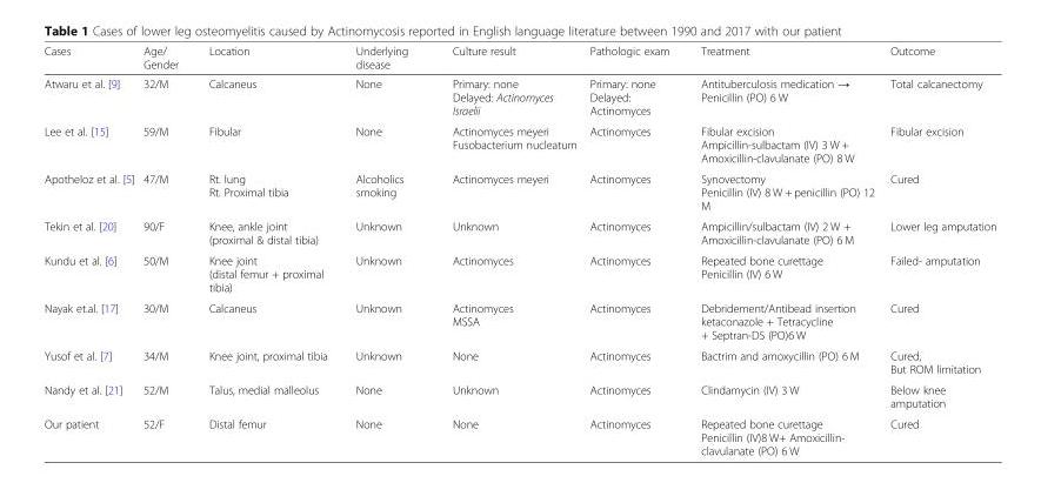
<table><thead><tr><td>Cases</td><td>Age/ Gender</td><td>Location</td><td>Underlying disease</td><td>Culture result</td><td>Pathologic exam</td><td>Treatment</td><td>Outcome</td></tr></thead><tbody><tr><td>Atwaru et al. [9]</td><td>32/M</td><td>Calcaneus</td><td>None</td><td>Primary: none Delayed: Actinomyces Israelii</td><td>Primary: none Delayed: Actinomyces</td><td>Antituberculosis medication → Penicillin (PO) 6 W</td><td>Total calcanectomy</td></tr><tr><td>Lee et al. [15]</td><td>59/M</td><td>Fibular</td><td>None</td><td>Actinomyces meyeri Fusobacterium nucleatum</td><td>Actinomyces</td><td>Fibular excision Ampicillin-sulbactam (IV) 3 W + Amoxicillin-clavulanate (PO) 8 W</td><td>Fibular excision</td></tr><tr><td>Apotheloz et al. [5]</td><td>47/M</td><td>Rt. lung Rt. Proximal tibia</td><td>Alcoholics smoking</td><td>Actinomyces meyeri</td><td>Actinomyces</td><td>Synovectomy Penicillin (IV) 8 W + penicillin (PO) 12 M</td><td>Cured</td></tr><tr><td>Tekin et al. [20]</td><td>90/F</td><td>Knee, ankle joint (proximal &amp; distal tibia)</td><td>Unknown</td><td>Unknown</td><td>Actinomyces</td><td>Ampicillin/sulbactam (IV) 2 W + Amoxicillin-clavulanate (PO) 6 M</td><td>Lower leg amputation</td></tr><tr><td>Kundu et al. [6]</td><td>50/M</td><td>Knee joint (distal femur + proximal tibia)</td><td>Unknown</td><td>Actinomyces</td><td>Actinomyces</td><td>Repeated bone curettage Penicillin (IV) 6 W</td><td>Failed- amputation</td></tr><tr><td>Nayak et.al. [17]</td><td>30/M</td><td>Calcaneus</td><td>Unknown</td><td>Actinomyces MSSA</td><td>Actinomyces</td><td>Debridement/Antibead insertion ketaconazole + Tetracycline + Septran-DS (PO)6 W</td><td>Cured</td></tr><tr><td>Yusof et al. [7]</td><td>34/M</td><td>Knee joint, proximal tibia</td><td>Unknown</td><td>None</td><td>Actinomyces</td><td>Bactrim and amoxycillin (PO) 6 M</td><td>Cured, But ROM limitation</td></tr><tr><td>Nandy et al. [21]</td><td>52/M</td><td>Talus, medial malleolus</td><td>None</td><td>Unknown</td><td>Actinomyces</td><td>Clindamycin (IV) 3 W</td><td>Below knee amputation</td></tr><tr><td>Our patient</td><td>52/F</td><td>Distal femur</td><td>None</td><td>None</td><td>Actinomyces</td><td>Repeated bone curettage Penicillin (IV)8 W+ Amoxicillin- clavulanate (PO) 6 W</td><td>Cured</td></tr></tbody></table>